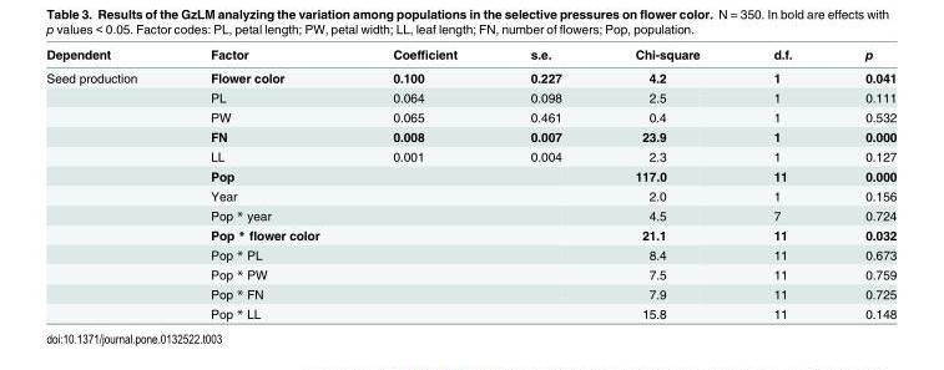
<table><thead><tr><td>Dependent</td><td>Factor</td><td>Coefficient</td><td>s.e.</td><td>Chi-square</td><td>d.f.</td><td>p</td></tr></thead><tbody><tr><td rowspan="13">Seed production</td><td>Flower color</td><td>0.100</td><td>0.227</td><td>4.2</td><td>1</td><td>0.041</td></tr><tr><td>PL</td><td>0.064</td><td>0.098</td><td>2.5</td><td>1</td><td>0.111</td></tr><tr><td>PW</td><td>0.065</td><td>0.461</td><td>0.4</td><td>1</td><td>0.532</td></tr><tr><td>FN</td><td>0.008</td><td>0.007</td><td>23.9</td><td>1</td><td>0.000</td></tr><tr><td>LL</td><td>0.001</td><td>0.004</td><td>2.3</td><td>1</td><td>0.127</td></tr><tr><td>Pop</td><td></td><td></td><td>117.0</td><td>11</td><td>0.000</td></tr><tr><td>Year</td><td></td><td></td><td>2.0</td><td>1</td><td>0.156</td></tr><tr><td>Pop * year</td><td></td><td></td><td>4.5</td><td>7</td><td>0.724</td></tr><tr><td>Pop * flower color</td><td></td><td></td><td>21.1</td><td>11</td><td>0.032</td></tr><tr><td>Pop * PL</td><td></td><td></td><td>8.4</td><td>11</td><td>0.673</td></tr><tr><td>Pop * PW</td><td></td><td></td><td>7.5</td><td>11</td><td>0.759</td></tr><tr><td>Pop * FN</td><td></td><td></td><td>7.9</td><td>11</td><td>0.725</td></tr><tr><td>Pop * LL</td><td></td><td></td><td>15.8</td><td>11</td><td>0.148</td></tr></tbody></table>